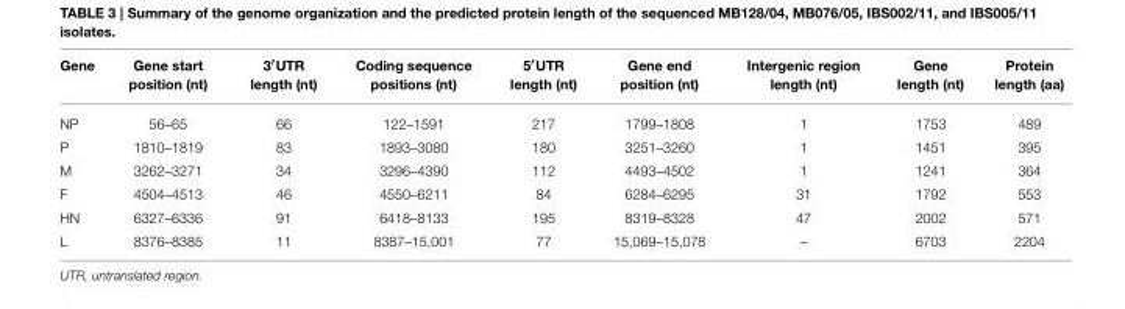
<table><thead><tr><td>Gene</td><td>Gene start position (nt)</td><td>3′UTR length (nt)</td><td>Coding sequence positions (nt)</td><td>5′UTR length (nt)</td><td>Gene end position (nt)</td><td>Intergenic region length (nt)</td><td>Gene length (nt)</td><td>Protein length (aa)</td></tr></thead><tbody><tr><td>NP</td><td>56–65</td><td>66</td><td>122–1591</td><td>217</td><td>1799–1808</td><td>1</td><td>1753</td><td>489</td></tr><tr><td>P</td><td>1810–1819</td><td>83</td><td>1893–3080</td><td>180</td><td>3251–3260</td><td>1</td><td>1451</td><td>395</td></tr><tr><td>M</td><td>3262–3271</td><td>34</td><td>3296–4390</td><td>112</td><td>4493–4502</td><td>1</td><td>1241</td><td>364</td></tr><tr><td>F</td><td>4504–4513</td><td>46</td><td>4550–6211</td><td>84</td><td>6284–6295</td><td>31</td><td>1792</td><td>553</td></tr><tr><td>HN</td><td>6327–6336</td><td>91</td><td>6418–8133</td><td>195</td><td>8319–8328</td><td>47</td><td>2002</td><td>571</td></tr><tr><td>L</td><td>8376–8385</td><td>11</td><td>8387–15,001</td><td>77</td><td>15,069–15,078</td><td>–</td><td>6703</td><td>2204</td></tr></tbody></table>